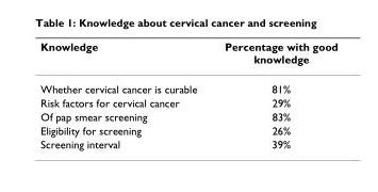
<table><thead><tr><td>Knowledge</td><td>Percentage with good knowledge</td></tr></thead><tbody><tr><td>Whether cervical cancer is curable</td><td>81%</td></tr><tr><td>Risk factors for cervical cancer</td><td>29%</td></tr><tr><td>Of pap smear screening</td><td>83%</td></tr><tr><td>Eligibility for screening</td><td>26%</td></tr><tr><td>Screening interval</td><td>39%</td></tr></tbody></table>